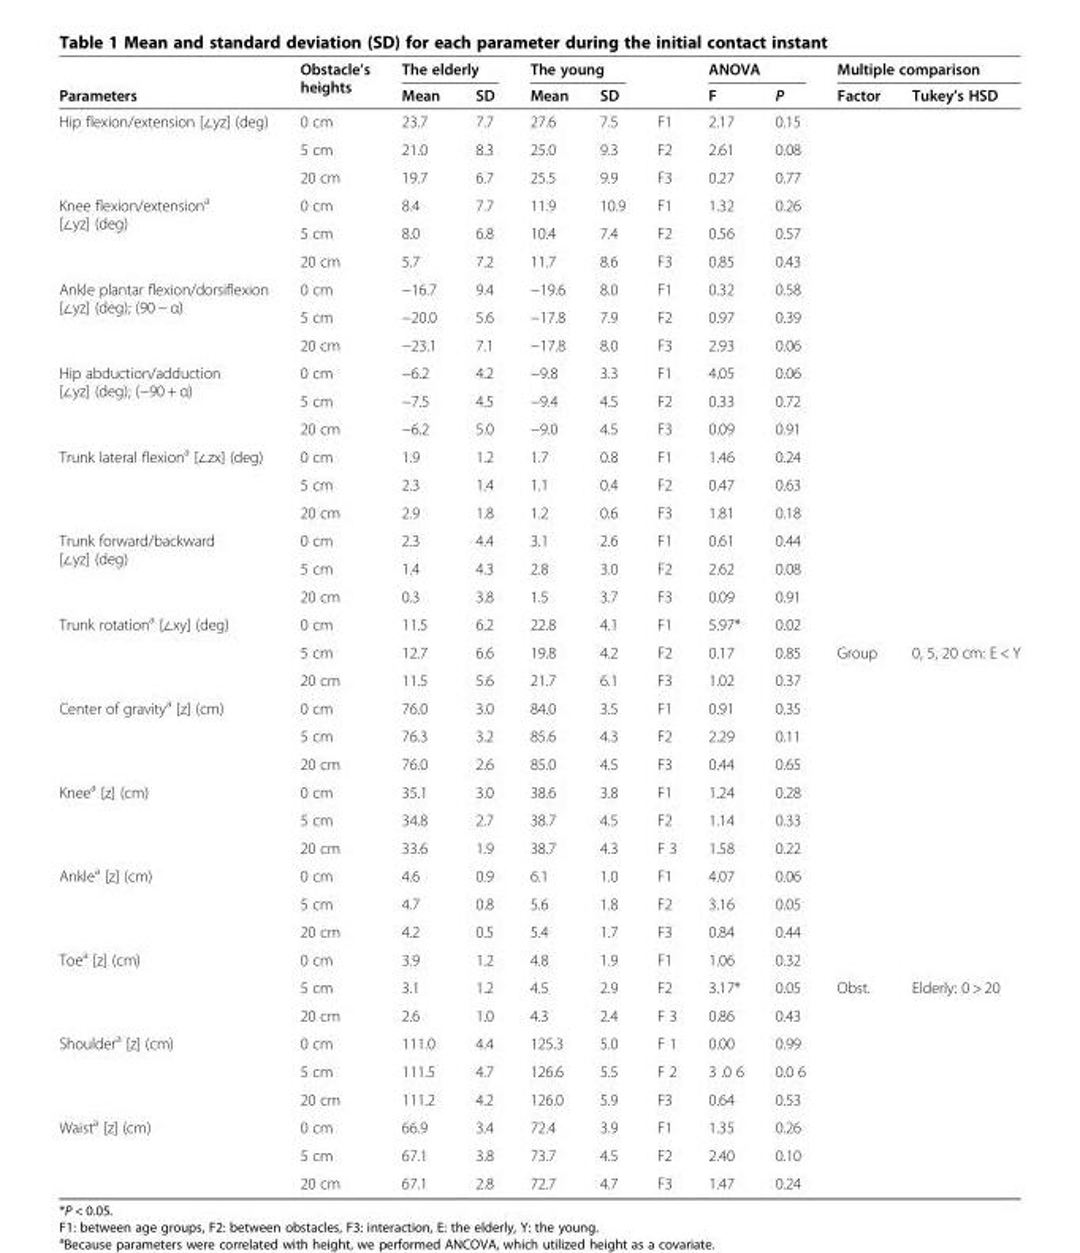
<table><thead><tr><td rowspan="2">Parameters</td><td rowspan="2">Obstacle’s heights</td><td colspan="2">The elderly</td><td colspan="2">The young</td><td rowspan="2"></td><td colspan="2">ANOVA</td><td colspan="2">Multiple comparison</td></tr><tr><td>Mean</td><td>SD</td><td>Mean</td><td>SD</td><td>F</td><td>P</td><td>Factor</td><td>Tukey’s HSD</td></tr></thead><tbody><tr><td rowspan="3">Hip flexion/extension [∠yz] (deg)</td><td>0 cm</td><td>23.7</td><td>7.7</td><td>27.6</td><td>7.5</td><td>F1</td><td>2.17</td><td>0.15</td><td></td><td></td></tr><tr><td>5 cm</td><td>21.0</td><td>8.3</td><td>25.0</td><td>9.3</td><td>F2</td><td>2.61</td><td>0.08</td><td></td><td></td></tr><tr><td>20 cm</td><td>19.7</td><td>6.7</td><td>25.5</td><td>9.9</td><td>F3</td><td>0.27</td><td>0.77</td><td></td><td></td></tr><tr><td rowspan="3">Knee flexion/extension<sup>a</sup> [∠yz] (deg)</td><td>0 cm</td><td>8.4</td><td>7.7</td><td>11.9</td><td>10.9</td><td>F1</td><td>1.32</td><td>0.26</td><td></td><td></td></tr><tr><td>5 cm</td><td>8.0</td><td>6.8</td><td>10.4</td><td>7.4</td><td>F2</td><td>0.56</td><td>0.57</td><td></td><td></td></tr><tr><td>20 cm</td><td>5.7</td><td>7.2</td><td>11.7</td><td>8.6</td><td>F3</td><td>0.85</td><td>0.43</td><td></td><td></td></tr><tr><td rowspan="3">Ankle plantar flexion/dorsiflexion [∠yz] (deg); (90 − α)</td><td>0 cm</td><td>−16.7</td><td>9.4</td><td>−19.6</td><td>8.0</td><td>F1</td><td>0.32</td><td>0.58</td><td></td><td></td></tr><tr><td>5 cm</td><td>−20.0</td><td>5.6</td><td>−17.8</td><td>7.9</td><td>F2</td><td>0.97</td><td>0.39</td><td></td><td></td></tr><tr><td>20 cm</td><td>−23.1</td><td>7.1</td><td>−17.8</td><td>8.0</td><td>F3</td><td>2.93</td><td>0.06</td><td></td><td></td></tr><tr><td rowspan="3">Hip abduction/adduction [∠yz] (deg); (−90 + α)</td><td>0 cm</td><td>−6.2</td><td>4.2</td><td>−9.8</td><td>3.3</td><td>F1</td><td>4.05</td><td>0.06</td><td></td><td></td></tr><tr><td>5 cm</td><td>−7.5</td><td>4.5</td><td>−9.4</td><td>4.5</td><td>F2</td><td>0.33</td><td>0.72</td><td></td><td></td></tr><tr><td>20 cm</td><td>−6.2</td><td>5.0</td><td>−9.0</td><td>4.5</td><td>F3</td><td>0.09</td><td>0.91</td><td></td><td></td></tr><tr><td rowspan="3">Trunk lateral flexion<sup>a</sup> [∠zx] (deg)</td><td>0 cm</td><td>1.9</td><td>1.2</td><td>1.7</td><td>0.8</td><td>F1</td><td>1.46</td><td>0.24</td><td></td><td></td></tr><tr><td>5 cm</td><td>2.3</td><td>1.4</td><td>1.1</td><td>0.4</td><td>F2</td><td>0.47</td><td>0.63</td><td></td><td></td></tr><tr><td>20 cm</td><td>2.9</td><td>1.8</td><td>1.2</td><td>0.6</td><td>F3</td><td>1.81</td><td>0.18</td><td></td><td></td></tr><tr><td rowspan="3">Trunk forward/backward [∠yz] (deg)</td><td>0 cm</td><td>2.3</td><td>4.4</td><td>3.1</td><td>2.6</td><td>F1</td><td>0.61</td><td>0.44</td><td></td><td></td></tr><tr><td>5 cm</td><td>1.4</td><td>4.3</td><td>2.8</td><td>3.0</td><td>F2</td><td>2.62</td><td>0.08</td><td></td><td></td></tr><tr><td>20 cm</td><td>0.3</td><td>3.8</td><td>1.5</td><td>3.7</td><td>F3</td><td>0.09</td><td>0.91</td><td></td><td></td></tr><tr><td rowspan="3">Trunk rotation<sup>a</sup> [∠xy] (deg)</td><td>0 cm</td><td>11.5</td><td>6.2</td><td>22.8</td><td>4.1</td><td>F1</td><td>5.97*</td><td>0.02</td><td></td><td></td></tr><tr><td>5 cm</td><td>12.7</td><td>6.6</td><td>19.8</td><td>4.2</td><td>F2</td><td>0.17</td><td>0.85</td><td>Group</td><td>0, 5, 20 cm: E &lt; Y</td></tr><tr><td>20 cm</td><td>11.5</td><td>5.6</td><td>21.7</td><td>6.1</td><td>F3</td><td>1.02</td><td>0.37</td><td></td><td></td></tr><tr><td rowspan="3">Center of gravity<sup>a</sup> [z] (cm)</td><td>0 cm</td><td>76.0</td><td>3.0</td><td>84.0</td><td>3.5</td><td>F1</td><td>0.91</td><td>0.35</td><td></td><td></td></tr><tr><td>5 cm</td><td>76.3</td><td>3.2</td><td>85.6</td><td>4.3</td><td>F2</td><td>2.29</td><td>0.11</td><td></td><td></td></tr><tr><td>20 cm</td><td>76.0</td><td>2.6</td><td>85.0</td><td>4.5</td><td>F3</td><td>0.44</td><td>0.65</td><td></td><td></td></tr><tr><td rowspan="3">Knee<sup>a</sup> [z] (cm)</td><td>0 cm</td><td>35.1</td><td>3.0</td><td>38.6</td><td>3.8</td><td>F1</td><td>1.24</td><td>0.28</td><td></td><td></td></tr><tr><td>5 cm</td><td>34.8</td><td>2.7</td><td>38.7</td><td>4.5</td><td>F2</td><td>1.14</td><td>0.33</td><td></td><td></td></tr><tr><td>20 cm</td><td>33.6</td><td>1.9</td><td>38.7</td><td>4.3</td><td>F 3</td><td>1.58</td><td>0.22</td><td></td><td></td></tr><tr><td rowspan="3">Ankle<sup>a</sup> [z] (cm)</td><td>0 cm</td><td>4.6</td><td>0.9</td><td>6.1</td><td>1.0</td><td>F1</td><td>4.07</td><td>0.06</td><td></td><td></td></tr><tr><td>5 cm</td><td>4.7</td><td>0.8</td><td>5.6</td><td>1.8</td><td>F2</td><td>3.16</td><td>0.05</td><td></td><td></td></tr><tr><td>20 cm</td><td>4.2</td><td>0.5</td><td>5.4</td><td>1.7</td><td>F3</td><td>0.84</td><td>0.44</td><td></td><td></td></tr><tr><td rowspan="3">Toe<sup>a</sup> [z] (cm)</td><td>0 cm</td><td>3.9</td><td>1.2</td><td>4.8</td><td>1.9</td><td>F1</td><td>1.06</td><td>0.32</td><td></td><td></td></tr><tr><td>5 cm</td><td>3.1</td><td>1.2</td><td>4.5</td><td>2.9</td><td>F2</td><td>3.17*</td><td>0.05</td><td>Obst.</td><td>Elderly: 0 &gt; 20</td></tr><tr><td>20 cm</td><td>2.6</td><td>1.0</td><td>4.3</td><td>2.4</td><td>F 3</td><td>0.86</td><td>0.43</td><td></td><td></td></tr><tr><td rowspan="3">Shoulder<sup>a</sup> [z] (cm)</td><td>0 cm</td><td>111.0</td><td>4.4</td><td>125.3</td><td>5.0</td><td>F 1</td><td>0.00</td><td>0.99</td><td></td><td></td></tr><tr><td>5 cm</td><td>111.5</td><td>4.7</td><td>126.6</td><td>5.5</td><td>F 2</td><td>3 .0 6</td><td>0.0 6</td><td></td><td></td></tr><tr><td>20 cm</td><td>111.2</td><td>4.2</td><td>126.0</td><td>5.9</td><td>F3</td><td>0.64</td><td>0.53</td><td></td><td></td></tr><tr><td rowspan="3">Waist<sup>a</sup> [z] (cm)</td><td>0 cm</td><td>66.9</td><td>3.4</td><td>72.4</td><td>3.9</td><td>F1</td><td>1.35</td><td>0.26</td><td></td><td></td></tr><tr><td>5 cm</td><td>67.1</td><td>3.8</td><td>73.7</td><td>4.5</td><td>F2</td><td>2.40</td><td>0.10</td><td></td><td></td></tr><tr><td>20 cm</td><td>67.1</td><td>2.8</td><td>72.7</td><td>4.7</td><td>F3</td><td>1.47</td><td>0.24</td><td></td><td></td></tr></tbody></table>